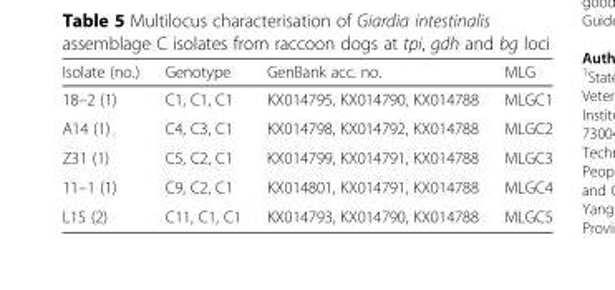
<table><thead><tr><td>Isolate (no.)</td><td>Genotype</td><td>GenBank acc. no.</td><td>MLG</td></tr></thead><tbody><tr><td>18–2 (1)</td><td>C1, C1, C1</td><td>KX014795, KX014790, KX014788</td><td>MLGC1</td></tr><tr><td>A14 (1)</td><td>C4, C3, C1</td><td>KX014798, KX014792, KX014788</td><td>MLGC2</td></tr><tr><td>Z31 (1)</td><td>C5, C2, C1</td><td>KX014799, KX014791, KX014788</td><td>MLGC3</td></tr><tr><td>11–1 (1)</td><td>C9, C2, C1</td><td>KX014801, KX014791, KX014788</td><td>MLGC4</td></tr><tr><td>L15 (2)</td><td>C11, C1, C1</td><td>KX014793, KX014790, KX014788</td><td>MLGC5</td></tr></tbody></table>